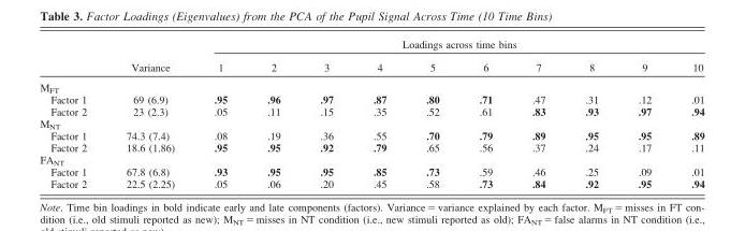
<table><thead><tr><td rowspan="2"></td><td rowspan="2">Variance</td><td colspan="10">Loadings across time bins</td></tr><tr><td>1</td><td>2</td><td>3</td><td>4</td><td>5</td><td>6</td><td>7</td><td>8</td><td>9</td><td>10</td></tr></thead><tbody><tr><td colspan="12">M<sub>FT</sub></td></tr><tr><td>Factor 1</td><td>69 (6.9)</td><td>.95</td><td>.96</td><td>.97</td><td>.87</td><td>.80</td><td>.71</td><td>.47</td><td>.31</td><td>.12</td><td>.01</td></tr><tr><td>Factor 2</td><td>23 (2.3)</td><td>.05</td><td>.11</td><td>.15</td><td>.35</td><td>.52</td><td>.61</td><td>.83</td><td>.93</td><td>.97</td><td>.94</td></tr><tr><td colspan="12">M<sub>NT</sub></td></tr><tr><td>Factor 1</td><td>74.3 (7.4)</td><td>.08</td><td>.19</td><td>.36</td><td>.55</td><td>.70</td><td>.79</td><td>.89</td><td>.95</td><td>.95</td><td>.89</td></tr><tr><td>Factor 2</td><td>18.6 (1.86)</td><td>.95</td><td>.95</td><td>.92</td><td>.79</td><td>.65</td><td>.56</td><td>.37</td><td>.24</td><td>.17</td><td>.11</td></tr><tr><td colspan="12">FA<sub>NT</sub></td></tr><tr><td>Factor 1</td><td>67.8 (6.8)</td><td>.93</td><td>.95</td><td>.95</td><td>.85</td><td>.73</td><td>.59</td><td>.46</td><td>.25</td><td>.09</td><td>.01</td></tr><tr><td>Factor 2</td><td>22.5 (2.25)</td><td>.05</td><td>.06</td><td>.20</td><td>.45</td><td>.58</td><td>.73</td><td>.84</td><td>.92</td><td>.95</td><td>.94</td></tr></tbody></table>